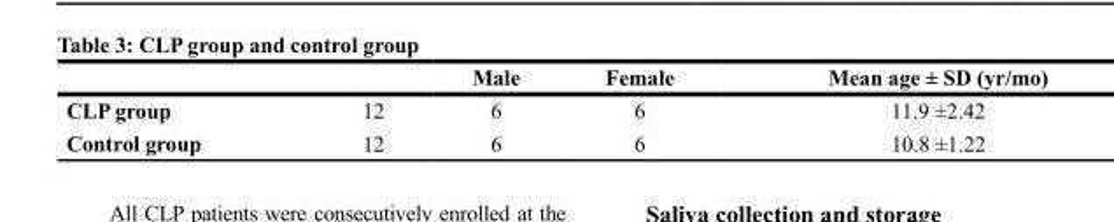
<table><thead><tr><td></td><td></td><td>Male</td><td>Female</td><td>Mean age ± SD (yr/mo)</td></tr></thead><tbody><tr><td>CLP group</td><td>12</td><td>6</td><td>6</td><td>11.9 ±2.42</td></tr><tr><td>Control group</td><td>12</td><td>6</td><td>6</td><td>10.8 ±1.22</td></tr></tbody></table>